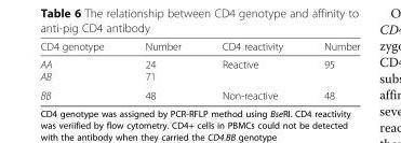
<table><thead><tr><td>CD4 genotype</td><td>Number</td><td>CD4 reactivity</td><td>Number</td></tr></thead><tbody><tr><td>AA AB</td><td>24 71</td><td>Reactive</td><td>95</td></tr><tr><td>BB</td><td>48</td><td>Non-reactive</td><td>48</td></tr></tbody></table>